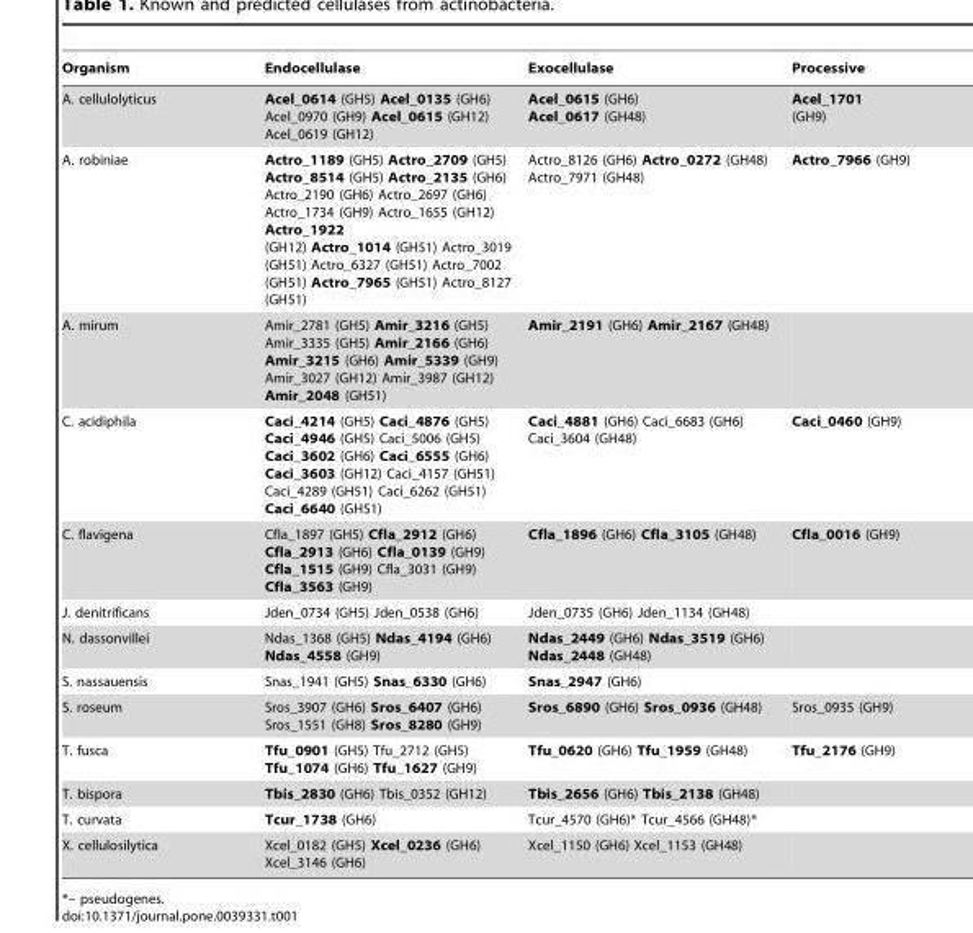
<table><thead><tr><td>Organism</td><td>Endocellulase</td><td>Exocellulase</td><td>Processive</td></tr></thead><tbody><tr><td>A. cellulolyticus</td><td>Acel_0614 (GH5) Acel_0135 (GH6) Acel_0970 (GH9) Acel_0615 (GH12) Acel_0619 (GH12)</td><td>Acel_0615 (GH6) Acel_0617 (GH48)</td><td>Acel_1701 (GH9)</td></tr><tr><td>A. robiniae</td><td>Actro_1189 (GH5) Actro_2709 (GH5) Actro_8514 (GH5) Actro_2135 (GH6) Actro_2190 (GH6) Actro_2697 (GH6) Actro_1734 (GH9) Actro_1655 (GH12) Actro_1922 (GH12) Actro_1014 (GH51) Actro_3019 (GH51) Actro_6327 (GH51) Actro_7002 (GH51) Actro_7965 (GH51) Actro_8127 (GH51)</td><td>Actro_8126 (GH6) Actro_0272 (GH48) Actro_7971 (GH48)</td><td>Actro_7966 (GH9)</td></tr><tr><td>A. mirum</td><td>Amir_2781 (GH5) Amir_3216 (GH5) Amir_3335 (GH5) Amir_2166 (GH6) Amir_3215 (GH6) Amir_5339 (GH9) Amir_3027 (GH12) Amir_3987 (GH12) Amir_2048 (GH51)</td><td>Amir_2191 (GH6) Amir_2167 (GH48)</td><td></td></tr><tr><td>C. acidiphila</td><td>Caci_4214 (GH5) Caci_4876 (GH5) Caci_4946 (GH5) Caci_5006 (GH5) Caci_3602 (GH6) Caci_6555 (GH6) Caci_3603 (GH12) Caci_4157 (GH51) Caci_4289 (GH51) Caci_6262 (GH51) Caci_6640 (GH51)</td><td>Caci_4881 (GH6) Caci_6683 (GH6) Caci_3604 (GH48)</td><td>Caci_0460 (GH9)</td></tr><tr><td>C. flavigena</td><td>Cfla_1897 (GH5) Cfla_2912 (GH6) Cfla_2913 (GH6) Cfla_0139 (GH9) Cfla_1515 (GH9) Cfla_3031 (GH9) Cfla_3563 (GH9)</td><td>Cfla_1896 (GH6) Cfla_3105 (GH48)</td><td>Cfla_0016 (GH9)</td></tr><tr><td>J. denitrificans</td><td>Jden_0734 (GH5) Jden_0538 (GH6)</td><td>Jden_0735 (GH6) Jden_1134 (GH48)</td><td></td></tr><tr><td>N. dassonvillei</td><td>Ndas_1368 (GH5) Ndas_4194 (GH6) Ndas_4558 (GH9)</td><td>Ndas_2449 (GH6) Ndas_3519 (GH6) Ndas_2448 (GH48)</td><td></td></tr><tr><td>S. nassauensis</td><td>Snas_1941 (GH5) Snas_6330 (GH6)</td><td>Snas_2947 (GH6)</td><td></td></tr><tr><td>S. roseum</td><td>Sros_3907 (GH6) Sros_6407 (GH6) Sros_1551 (GH8) Sros_8280 (GH9)</td><td>Sros_6890 (GH6) Sros_0936 (GH48)</td><td>Sros_0935 (GH9)</td></tr><tr><td>T. fusca</td><td>Tfu_0901 (GH5) Tfu_2712 (GH5) Tfu_1074 (GH6) Tfu_1627 (GH9)</td><td>Tfu_0620 (GH6) Tfu_1959 (GH48)</td><td>Tfu_2176 (GH9)</td></tr><tr><td>T. bispora</td><td>Tbis_2830 (GH6) Tbis_0352 (GH12)</td><td>Tbis_2656 (GH6) Tbis_2138 (GH48)</td><td></td></tr><tr><td>T. curvata</td><td>Tcur_1738 (GH6)</td><td>Tcur_4570 (GH6)* Tcur_4566 (GH48)*</td><td></td></tr><tr><td>X. cellulosilytica</td><td>Xcel_0182 (GH5) Xcel_0236 (GH6) Xcel_3146 (GH6)</td><td>Xcel_1150 (GH6) Xcel_1153 (GH48)</td><td></td></tr></tbody></table>